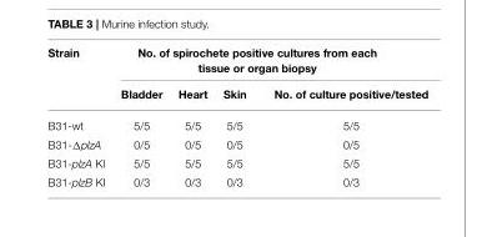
<table><thead><tr><td rowspan="2">Strain</td><td colspan="4">No. of spirochete positive cultures from each tissue or organ biopsy</td></tr><tr><td>Bladder</td><td>Heart</td><td>Skin</td><td>No. of culture positive/tested</td></tr></thead><tbody><tr><td>B31-wt</td><td>5/5</td><td>5/5</td><td>5/5</td><td>5/5</td></tr><tr><td>B31-ΔplzA</td><td>0/5</td><td>0/5</td><td>0/5</td><td>0/5</td></tr><tr><td>B31-plzA KI</td><td>5/5</td><td>5/5</td><td>5/5</td><td>5/5</td></tr><tr><td>B31-plzB KI</td><td>0/3</td><td>0/3</td><td>0/3</td><td>0/3</td></tr></tbody></table>